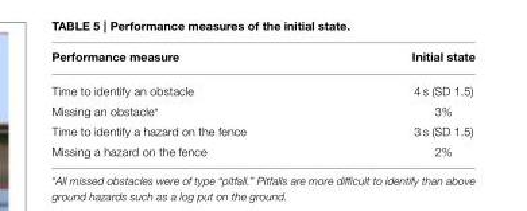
<table><thead><tr><td>Performance measure</td><td>Initial state</td></tr></thead><tbody><tr><td>Time to identify an obstacle</td><td>4 s (SD 1.5)</td></tr><tr><td>Missing an obstacle*</td><td>3%</td></tr><tr><td>Time to identify a hazard on the fence</td><td>3 s (SD 1.5)</td></tr><tr><td>Missing a hazard on the fence</td><td>2%</td></tr></tbody></table>